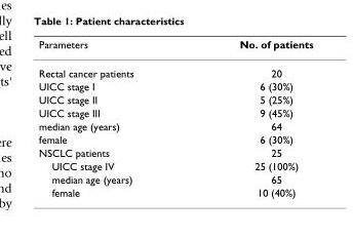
<table><thead><tr><td>Parameters</td><td>No. of patients</td></tr></thead><tbody><tr><td>Rectal cancer patients</td><td>20</td></tr><tr><td>UICC stage I</td><td>6 (30%)</td></tr><tr><td>UICC stage II</td><td>5 (25%)</td></tr><tr><td>UICC stage III</td><td>9 (45%)</td></tr><tr><td>median age (years)</td><td>64</td></tr><tr><td>female</td><td>6 (30%)</td></tr><tr><td>NSCLC patients</td><td>25</td></tr><tr><td>UICC stage IV</td><td>25 (100%)</td></tr><tr><td>median age (years)</td><td>65</td></tr><tr><td>female</td><td>10 (40%)</td></tr></tbody></table>